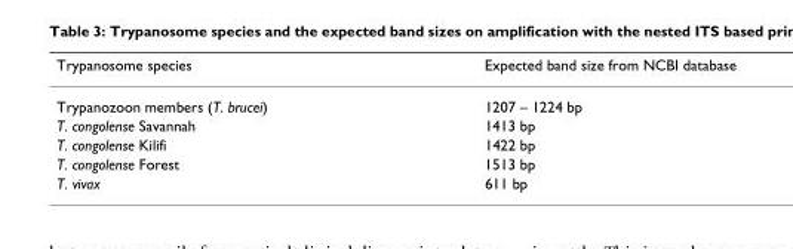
<table><thead><tr><td>Trypanosome species</td><td>Expected band size from NCBI database</td></tr></thead><tbody><tr><td>Trypanozoon members (T. brucei)</td><td>1207 – 1224 bp</td></tr><tr><td>T. congolense Savannah</td><td>1413 bp</td></tr><tr><td>T. congolense Kilifi</td><td>1422 bp</td></tr><tr><td>T. congolense Forest</td><td>1513 bp</td></tr><tr><td>T. vivax</td><td>611 bp</td></tr></tbody></table>